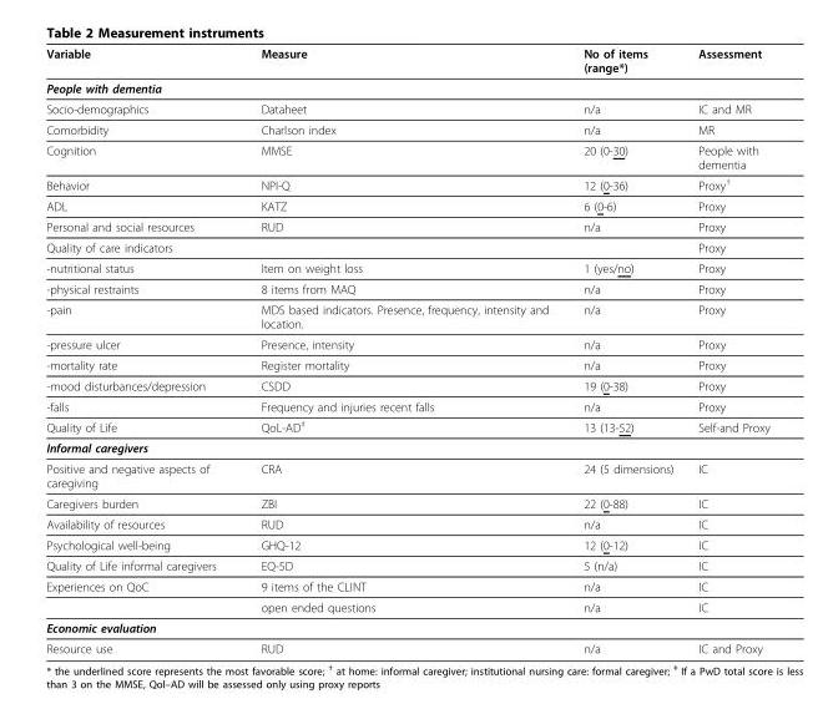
<table><thead><tr><td>Variable</td><td>Measure</td><td>No of items (range*)</td><td>Assessment</td></tr></thead><tbody><tr><td colspan="4">People with dementia</td></tr><tr><td>Socio-demographics</td><td>Dataheet</td><td>n/a</td><td>IC and MR</td></tr><tr><td>Comorbidity</td><td>Charlson index</td><td>n/a</td><td>MR</td></tr><tr><td>Cognition</td><td>MMSE</td><td>20 (0-30)</td><td>People with dementia</td></tr><tr><td>Behavior</td><td>NPI-Q</td><td>12 (0-36)</td><td>Proxy<sup>†</sup></td></tr><tr><td>ADL</td><td>KATZ</td><td>6 (0-6)</td><td>Proxy</td></tr><tr><td>Personal and social resources</td><td>RUD</td><td>n/a</td><td>Proxy</td></tr><tr><td>Quality of care indicators</td><td></td><td></td><td>Proxy</td></tr><tr><td>-nutritional status</td><td>Item on weight loss</td><td>1 (yes/no)</td><td>Proxy</td></tr><tr><td>-physical restraints</td><td>8 items from MAQ</td><td>n/a</td><td>Proxy</td></tr><tr><td>-pain</td><td>MDS based indicators. Presence, frequency, intensity and location.</td><td>n/a</td><td>Proxy</td></tr><tr><td>-pressure ulcer</td><td>Presence, intensity</td><td>n/a</td><td>Proxy</td></tr><tr><td>-mortality rate</td><td>Register mortality</td><td>n/a</td><td>Proxy</td></tr><tr><td>-mood disturbances/depression</td><td>CSDD</td><td>19 (0-38)</td><td>Proxy</td></tr><tr><td>-falls</td><td>Frequency and injuries recent falls</td><td>n/a</td><td>Proxy</td></tr><tr><td>Quality of Life</td><td>QoL-AD<sup>‡</sup></td><td>13 (13-52)</td><td>Self-and Proxy</td></tr><tr><td colspan="4">Informal caregivers</td></tr><tr><td>Positive and negative aspects of caregiving</td><td>CRA</td><td>24 (5 dimensions)</td><td>IC</td></tr><tr><td>Caregivers burden</td><td>ZBI</td><td>22 (0-88)</td><td>IC</td></tr><tr><td>Availability of resources</td><td>RUD</td><td>n/a</td><td>IC</td></tr><tr><td>Psychological well-being</td><td>GHQ-12</td><td>12 (0-12)</td><td>IC</td></tr><tr><td>Quality of Life informal caregivers</td><td>EQ-5D</td><td>5 (n/a)</td><td>IC</td></tr><tr><td rowspan="2">Experiences on QoC</td><td>9 items of the CLINT</td><td>n/a</td><td>IC</td></tr><tr><td>open ended questions</td><td>n/a</td><td>IC</td></tr><tr><td colspan="4">Economic evaluation</td></tr><tr><td>Resource use</td><td>RUD</td><td>n/a</td><td>IC and Proxy</td></tr></tbody></table>